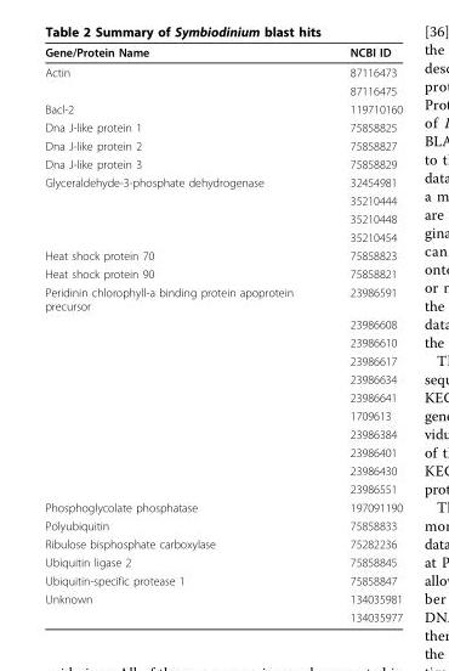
<table><thead><tr><td>Gene/Protein Name</td><td>NCBI ID</td></tr></thead><tbody><tr><td rowspan="2">Actin</td><td>87116473</td></tr><tr><td>87116475</td></tr><tr><td>Bacl-2</td><td>119710160</td></tr><tr><td>Dna J-like protein 1</td><td>75858825</td></tr><tr><td>Dna J-like protein 2</td><td>75858827</td></tr><tr><td>Dna J-like protein 3</td><td>75858829</td></tr><tr><td rowspan="4">Glyceraldehyde-3-phosphate dehydrogenase</td><td>32454981</td></tr><tr><td>35210444</td></tr><tr><td>35210448</td></tr><tr><td>35210454</td></tr><tr><td>Heat shock protein 70</td><td>75858823</td></tr><tr><td>Heat shock protein 90</td><td>75858821</td></tr><tr><td rowspan="11">Peridinin chlorophyll-a binding protein apoprotein precursor</td><td>23986591</td></tr><tr><td>23986608</td></tr><tr><td>23986610</td></tr><tr><td>23986617</td></tr><tr><td>23986634</td></tr><tr><td>23986641</td></tr><tr><td>1709613</td></tr><tr><td>23986384</td></tr><tr><td>23986401</td></tr><tr><td>23986430</td></tr><tr><td>23986551</td></tr><tr><td>Phosphoglycolate phosphatase</td><td>197091190</td></tr><tr><td>Polyubiquitin</td><td>75858833</td></tr><tr><td>Ribulose bisphosphate carboxylase</td><td>75282236</td></tr><tr><td>Ubiquitin ligase 2</td><td>75858845</td></tr><tr><td>Ubiquitin-specific protease 1</td><td>75858847</td></tr><tr><td rowspan="2">Unknown</td><td>134035981</td></tr><tr><td>134035977</td></tr></tbody></table>